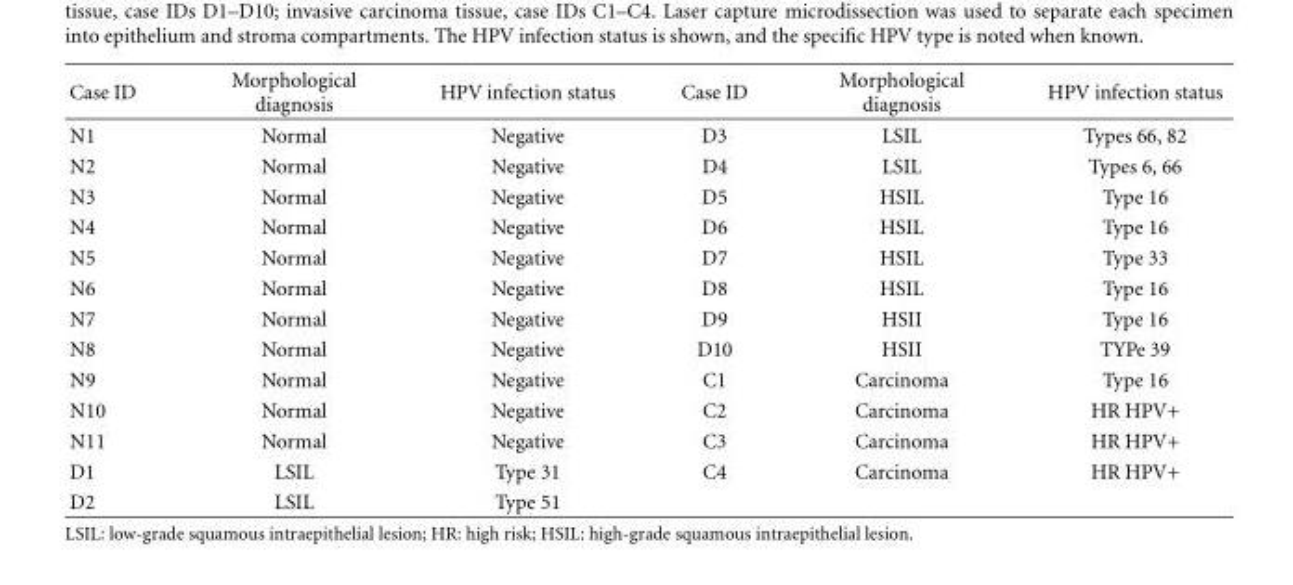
<table><thead><tr><td>Case ID</td><td>Morphological diagnosis</td><td>HPV infection status</td><td>Case ID</td><td>Morphological diagnosis</td><td>HPV infection status</td></tr></thead><tbody><tr><td>N1</td><td>Normal</td><td>Negative</td><td>D3</td><td>LSIL</td><td>Types 66, 82</td></tr><tr><td>N2</td><td>Normal</td><td>Negative</td><td>D4</td><td>LSIL</td><td>Types 6, 66</td></tr><tr><td>N3</td><td>Normal</td><td>Negative</td><td>D5</td><td>HSIL</td><td>Type 16</td></tr><tr><td>N4</td><td>Normal</td><td>Negative</td><td>D6</td><td>HSIL</td><td>Type 16</td></tr><tr><td>N5</td><td>Normal</td><td>Negative</td><td>D7</td><td>HSIL</td><td>Type 33</td></tr><tr><td>N6</td><td>Normal</td><td>Negative</td><td>D8</td><td>HSIL</td><td>Type 16</td></tr><tr><td>N7</td><td>Normal</td><td>Negative</td><td>D9</td><td>HSII</td><td>Type 16</td></tr><tr><td>N8</td><td>Normal</td><td>Negative</td><td>D10</td><td>HSII</td><td>TYPe 39</td></tr><tr><td>N9</td><td>Normal</td><td>Negative</td><td>C1</td><td>Carcinoma</td><td>Type 16</td></tr><tr><td>N10</td><td>Normal</td><td>Negative</td><td>C2</td><td>Carcinoma</td><td>HR HPV+</td></tr><tr><td>N11</td><td>Normal</td><td>Negative</td><td>C3</td><td>Carcinoma</td><td>HR HPV+</td></tr><tr><td>D1</td><td>LSIL</td><td>Type 31</td><td>C4</td><td>Carcinoma</td><td>HR HPV+</td></tr><tr><td>D2</td><td>LSIL</td><td>Type 51</td><td></td><td></td><td></td></tr></tbody></table>